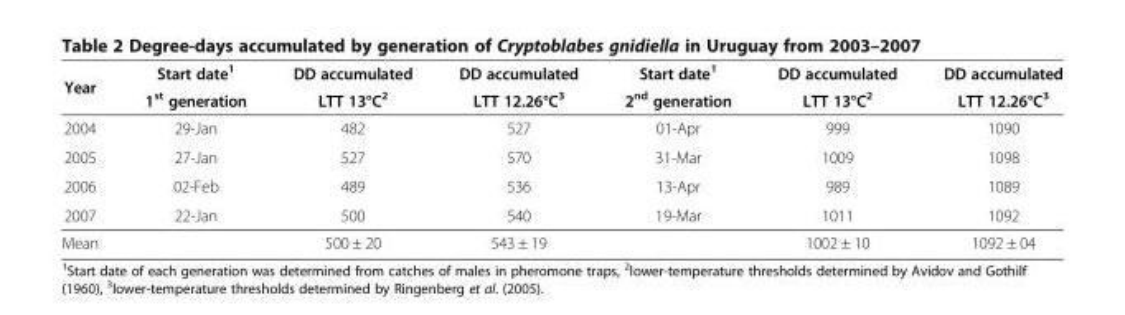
<table><thead><tr><td rowspan="2">Year</td><td rowspan="2">Start date<sup>1</sup> 1<sup>st</sup> generation</td><td rowspan="2">DD accumulated LTT 13°C<sup>2</sup></td><td rowspan="2">DD accumulated LTT 12.26°C<sup>3</sup></td><td rowspan="2">Start date<sup>1</sup> 2<sup>nd</sup> generation</td><td rowspan="2">DD accumulated LTT 13°C<sup>2</sup></td><td rowspan="2">DD accumulated LTT 12.26°C<sup>3</sup></td></tr><tr></tr></thead><tbody><tr><td>2004</td><td>29-Jan</td><td>482</td><td>527</td><td>01-Apr</td><td>999</td><td>1090</td></tr><tr><td>2005</td><td>27-Jan</td><td>527</td><td>570</td><td>31-Mar</td><td>1009</td><td>1098</td></tr><tr><td>2006</td><td>02-Feb</td><td>489</td><td>536</td><td>13-Apr</td><td>989</td><td>1089</td></tr><tr><td>2007</td><td>22-Jan</td><td>500</td><td>540</td><td>19-Mar</td><td>1011</td><td>1092</td></tr><tr><td>Mean</td><td></td><td>500 ± 20</td><td>543 ± 19</td><td></td><td>1002 ± 10</td><td>1092 ± 04</td></tr></tbody></table>